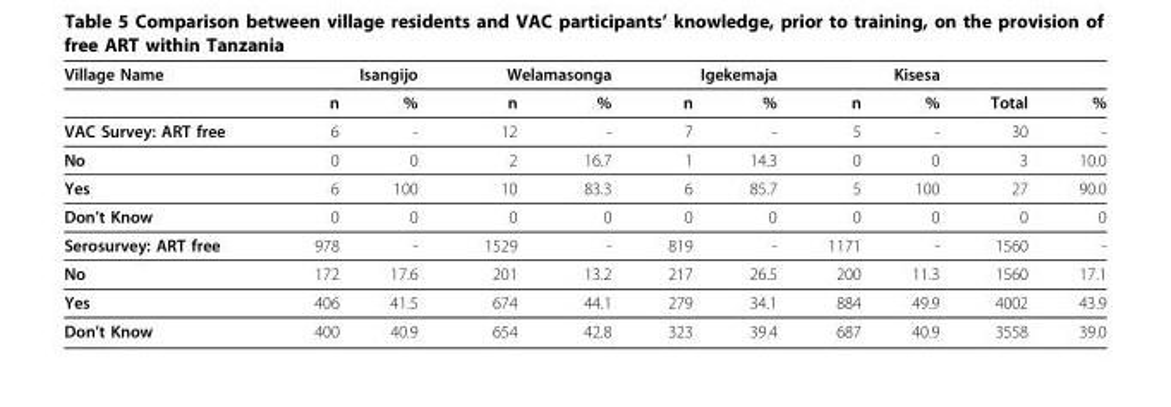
<table><thead><tr><td rowspan="2">Village Name</td><td colspan="2">Isangijo</td><td colspan="2">Welamasonga</td><td colspan="2">Igekemaja</td><td colspan="2">Kisesa</td><td rowspan="2">Total</td><td rowspan="2">%</td></tr><tr><td>n</td><td>%</td><td>n</td><td>%</td><td>n</td><td>%</td><td>n</td><td>%</td></tr></thead><tbody><tr><td>VAC Survey: ART free</td><td>6</td><td>-</td><td>12</td><td>-</td><td>7</td><td>-</td><td>5</td><td>-</td><td>30</td><td>-</td></tr><tr><td>No</td><td>0</td><td>0</td><td>2</td><td>16.7</td><td>1</td><td>14.3</td><td>0</td><td>0</td><td>3</td><td>10.0</td></tr><tr><td>Yes</td><td>6</td><td>100</td><td>10</td><td>83.3</td><td>6</td><td>85.7</td><td>5</td><td>100</td><td>27</td><td>90.0</td></tr><tr><td>Don’t Know</td><td>0</td><td>0</td><td>0</td><td>0</td><td>0</td><td>0</td><td>0</td><td>0</td><td>0</td><td>0</td></tr><tr><td>Serosurvey: ART free</td><td>978</td><td>-</td><td>1529</td><td>-</td><td>819</td><td>-</td><td>1171</td><td>-</td><td>1560</td><td>-</td></tr><tr><td>No</td><td>172</td><td>17.6</td><td>201</td><td>13.2</td><td>217</td><td>26.5</td><td>200</td><td>11.3</td><td>1560</td><td>17.1</td></tr><tr><td>Yes</td><td>406</td><td>41.5</td><td>674</td><td>44.1</td><td>279</td><td>34.1</td><td>884</td><td>49.9</td><td>4002</td><td>43.9</td></tr><tr><td>Don’t Know</td><td>400</td><td>40.9</td><td>654</td><td>42.8</td><td>323</td><td>39.4</td><td>687</td><td>40.9</td><td>3558</td><td>39.0</td></tr></tbody></table>